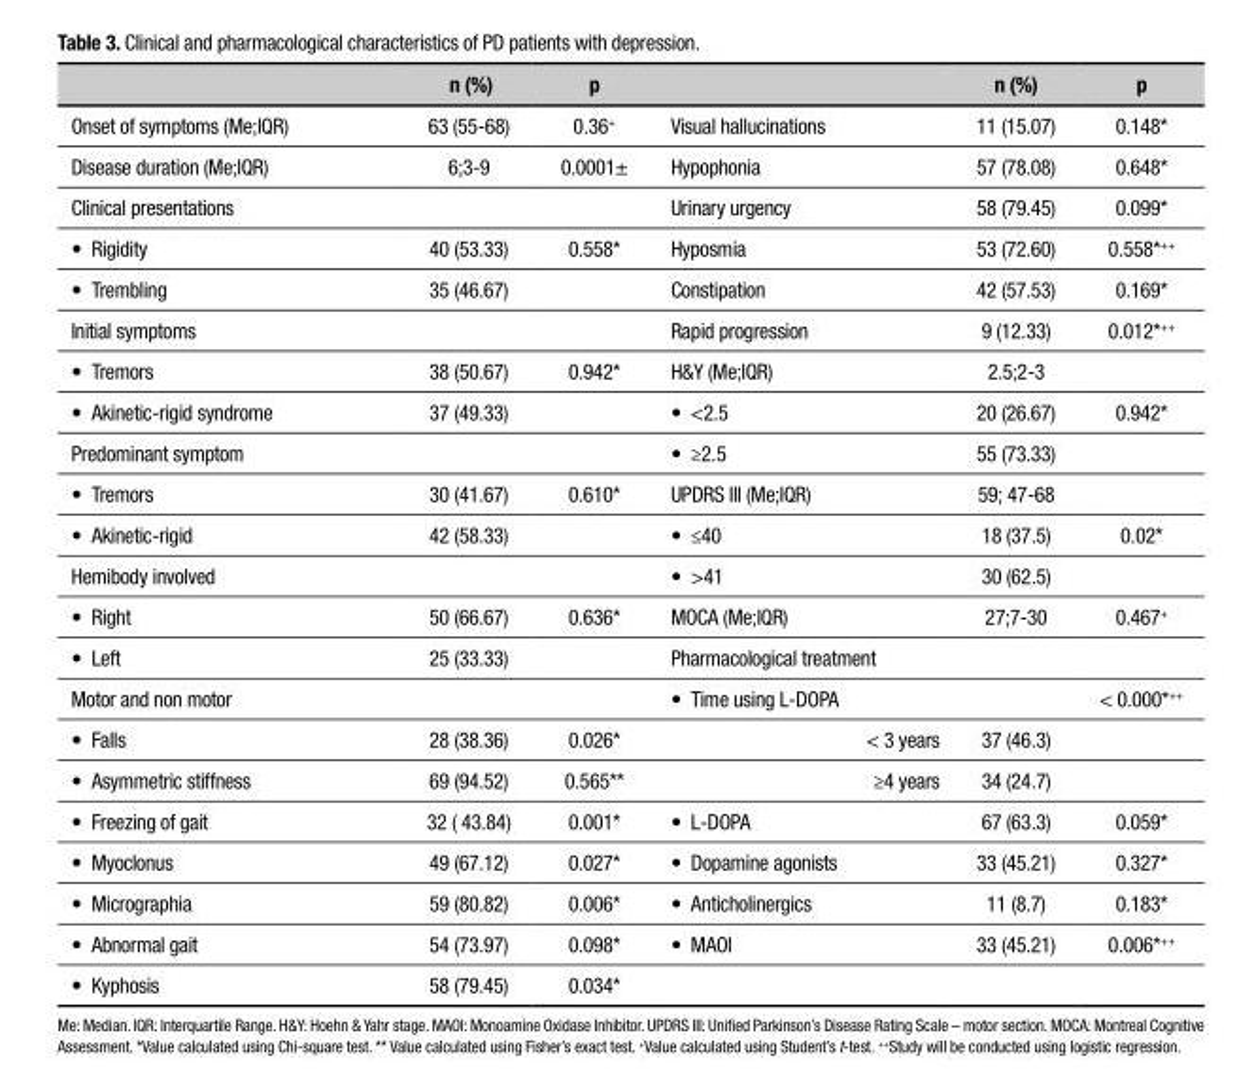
<table><thead><tr><td></td><td>n (%)</td><td>p</td><td></td><td>n (%)</td><td>p</td></tr></thead><tbody><tr><td>Onset of symptoms (Me;IQR)</td><td>63 (55-68)</td><td>0.36+</td><td>Visual hallucinations</td><td>11 (15.07)</td><td>0.148*</td></tr><tr><td>Disease duration (Me;IQR)</td><td>6;3-9</td><td>0.0001±</td><td>Hypophonia</td><td>57 (78.08)</td><td>0.648*</td></tr><tr><td>Clinical presentations</td><td></td><td></td><td>Urinary urgency</td><td>58 (79.45)</td><td>0.099*</td></tr><tr><td>• Rigidity</td><td>40 (53.33)</td><td>0.558*</td><td>Hyposmia</td><td>53 (72.60)</td><td>0.558*++</td></tr><tr><td>• Trembling</td><td>35 (46.67)</td><td></td><td>Constipation</td><td>42 (57.53)</td><td>0.169*</td></tr><tr><td>Initial symptoms</td><td></td><td></td><td>Rapid progression</td><td>9 (12.33)</td><td>0.012*++</td></tr><tr><td>• Tremors</td><td>38 (50.67)</td><td>0.942*</td><td>H&amp;Y (Me;IQR)</td><td>2.5;2-3</td><td></td></tr><tr><td>• Akinetic-rigid syndrome</td><td>37 (49.33)</td><td></td><td>• &lt;2.5</td><td>20 (26.67)</td><td>0.942*</td></tr><tr><td>Predominant symptom</td><td></td><td></td><td>• ≥2.5</td><td>55 (73.33)</td><td></td></tr><tr><td>• Tremors</td><td>30 (41.67)</td><td>0.610*</td><td>UPDRS III (Me;IQR)</td><td>59; 47-68</td><td></td></tr><tr><td>• Akinetic-rigid</td><td>42 (58.33)</td><td></td><td>• ≤40</td><td>18 (37.5)</td><td>0.02*</td></tr><tr><td>Hemibody involved</td><td></td><td></td><td>• &gt;41</td><td>30 (62.5)</td><td></td></tr><tr><td>• Right</td><td>50 (66.67)</td><td>0.636*</td><td>MOCA (Me;IQR)</td><td>27;7-30</td><td>0.467+</td></tr><tr><td>• Left</td><td>25 (33.33)</td><td></td><td>Pharmacological treatment</td><td></td><td></td></tr><tr><td>Motor and non motor</td><td></td><td></td><td>• Time using L-DOPA</td><td></td><td>&lt; 0.000*++</td></tr><tr><td>• Falls</td><td>28 (38.36)</td><td>0.026*</td><td>&lt; 3 years</td><td>37 (46.3)</td><td></td></tr><tr><td>• Asymmetric stiffness</td><td>69 (94.52)</td><td>0.565**</td><td>≥4 years</td><td>34 (24.7)</td><td></td></tr><tr><td>• Freezing of gait</td><td>32 ( 43.84)</td><td>0.001*</td><td>• L-DOPA</td><td>67 (63.3)</td><td>0.059*</td></tr><tr><td>• Myoclonus</td><td>49 (67.12)</td><td>0.027*</td><td>• Dopamine agonists</td><td>33 (45.21)</td><td>0.327*</td></tr><tr><td>• Micrographia</td><td>59 (80.82)</td><td>0.006*</td><td>• Anticholinergics</td><td>11 (8.7)</td><td>0.183*</td></tr><tr><td>• Abnormal gait</td><td>54 (73.97)</td><td>0.098*</td><td>• MAOI</td><td>33 (45.21)</td><td>0.006*++</td></tr><tr><td>• Kyphosis</td><td>58 (79.45)</td><td>0.034*</td><td></td><td></td><td></td></tr></tbody></table>